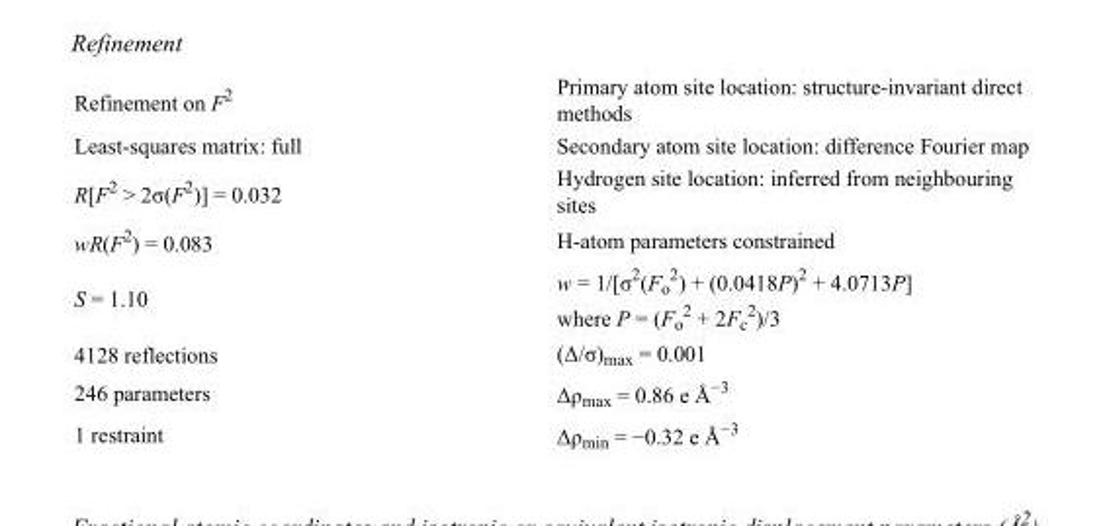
<table><tbody><tr><td>Refinement on F<sup>2</sup></td><td>Primary atom site location: structure-invariant direct methods</td></tr><tr><td>Least-squares matrix: full</td><td>Secondary atom site location: difference Fourier map</td></tr><tr><td>R[F<sup>2</sup> &gt; 2σ(F<sup>2</sup>)] = 0.032</td><td>Hydrogen site location: inferred from neighbouring sites</td></tr><tr><td>wR(F<sup>2</sup>) = 0.083</td><td>H-atom parameters constrained</td></tr><tr><td>S = 1.10</td><td>w = 1/[σ<sup>2</sup>(F<sub>o</sub> <sup>2</sup>) + (0.0418P)<sup>2</sup> + 4.0713P] where P = (F<sub>o</sub> <sup>2</sup> + 2F<sub>c</sub> <sup>2</sup>)/3</td></tr><tr><td>4128 reflections</td><td>(Δ/σ)<sub>max</sub> = 0.001</td></tr><tr><td>246 parameters</td><td>Δρ<sub>max</sub> = 0.86 e Å<sup>−3</sup></td></tr><tr><td>1 restraint</td><td>Δρ<sub>min</sub> = −0.32 e Å<sup>−3</sup></td></tr></tbody></table>